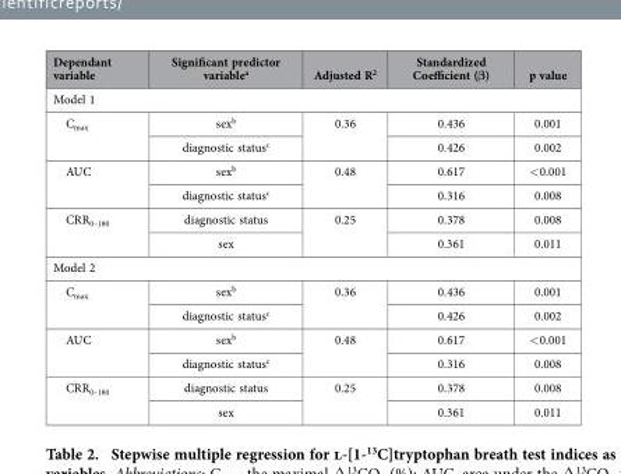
<table><thead><tr><td>Dependant variable</td><td>Significant predictor variable<sup>a</sup></td><td>Adjusted R<sup>2</sup></td><td>Standardized Coefficient (β)</td><td>p value</td></tr></thead><tbody><tr><td colspan="5">Model 1</td></tr><tr><td rowspan="2">C<sub>max</sub></td><td>sex<sup>b</sup></td><td rowspan="2">0.36</td><td>0.436</td><td>0.001</td></tr><tr><td>diagnostic status<sup>c</sup></td><td>0.426</td><td>0.002</td></tr><tr><td rowspan="2">AUC</td><td>sex<sup>b</sup></td><td rowspan="2">0.48</td><td>0.617</td><td>&lt; 0.001</td></tr><tr><td>diagnostic status<sup>c</sup></td><td>0.316</td><td>0.008</td></tr><tr><td rowspan="2">CRR<sub>0–180</sub></td><td>diagnostic status</td><td rowspan="2">0.25</td><td>0.378</td><td>0.008</td></tr><tr><td>sex</td><td>0.361</td><td>0.011</td></tr><tr><td colspan="5">Model 2</td></tr><tr><td rowspan="2">C<sub>max</sub></td><td>sex<sup>b</sup></td><td rowspan="2">0.36</td><td>0.436</td><td>0.001</td></tr><tr><td>diagnostic status<sup>c</sup></td><td>0.426</td><td>0.002</td></tr><tr><td rowspan="2">AUC</td><td>sex<sup>b</sup></td><td rowspan="2">0.48</td><td>0.617</td><td>&lt; 0.001</td></tr><tr><td>diagnostic status<sup>c</sup></td><td>0.316</td><td>0.008</td></tr><tr><td rowspan="2">CRR<sub>0–180</sub></td><td>diagnostic status</td><td rowspan="2">0.25</td><td>0.378</td><td>0.008</td></tr><tr><td>sex</td><td>0.361</td><td>0.011</td></tr></tbody></table>